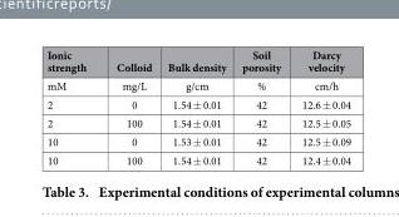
<table><thead><tr><td>Ionic strength</td><td>Colloid</td><td>Bulk density</td><td>Soil porosity</td><td>Darcy velocity</td></tr></thead><tbody><tr><td>mM</td><td>mg/L</td><td>g/cm</td><td>%</td><td>cm/h</td></tr><tr><td>2</td><td>0</td><td>1.54 ± 0.01</td><td>42</td><td>12.6 ± 0.04</td></tr><tr><td>2</td><td>100</td><td>1.54 ± 0.01</td><td>42</td><td>12.5 ± 0.05</td></tr><tr><td>10</td><td>0</td><td>1.53 ± 0.01</td><td>42</td><td>12.5 ± 0.09</td></tr><tr><td>10</td><td>100</td><td>1.54 ± 0.01</td><td>42</td><td>12.4 ± 0.04</td></tr></tbody></table>